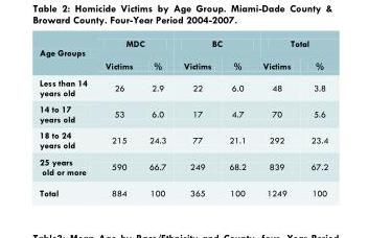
<table><thead><tr><td rowspan="2">Age Groups</td><td colspan="2">MDC</td><td colspan="2">BC</td><td colspan="2">Total</td></tr><tr><td>Victims</td><td>%</td><td>Victims</td><td>%</td><td>Victims</td><td>%</td></tr></thead><tbody><tr><td>Less than 14 years old</td><td>26</td><td>2.9</td><td>22</td><td>6.0</td><td>48</td><td>3.8</td></tr><tr><td>14 to 17 years old</td><td>53</td><td>6.0</td><td>17</td><td>4.7</td><td>70</td><td>5.6</td></tr><tr><td>18 to 24 years old</td><td>215</td><td>24.3</td><td>77</td><td>21.1</td><td>292</td><td>23.4</td></tr><tr><td>25 years old or more</td><td>590</td><td>66.7</td><td>249</td><td>68.2</td><td>839</td><td>67.2</td></tr><tr><td>Total</td><td>884</td><td>100</td><td>365</td><td>100</td><td>1249</td><td>100</td></tr></tbody></table>